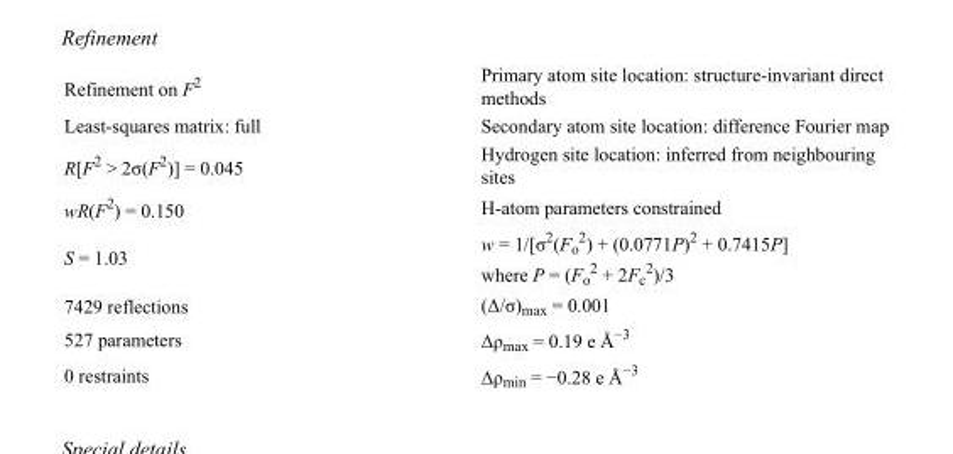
<table><tbody><tr><td>Refinement on F<sup>2</sup></td><td>Primary atom site location: structure-invariant direct methods</td></tr><tr><td>Least-squares matrix: full</td><td>Secondary atom site location: difference Fourier map</td></tr><tr><td>R[F<sup>2</sup> &gt; 2σ(F<sup>2</sup>)] = 0.045</td><td>Hydrogen site location: inferred from neighbouring sites</td></tr><tr><td>wR(F<sup>2</sup>) = 0.150</td><td>H-atom parameters constrained</td></tr><tr><td>S = 1.03</td><td>w = 1/[σ<sup>2</sup>(F<sub>o</sub> <sup>2</sup>) + (0.0771P)<sup>2</sup> + 0.7415P] where P = (F<sub>o</sub> <sup>2</sup> + 2F<sub>c</sub> <sup>2</sup>)/3</td></tr><tr><td>7429 reflections</td><td>(Δ/σ)<sub>max</sub> = 0.001</td></tr><tr><td>527 parameters</td><td>Δρ<sub>max</sub> = 0.19 e Å<sup>−3</sup></td></tr><tr><td>0 restraints</td><td>Δρ<sub>min</sub> = −0.28 e Å<sup>−3</sup></td></tr></tbody></table>